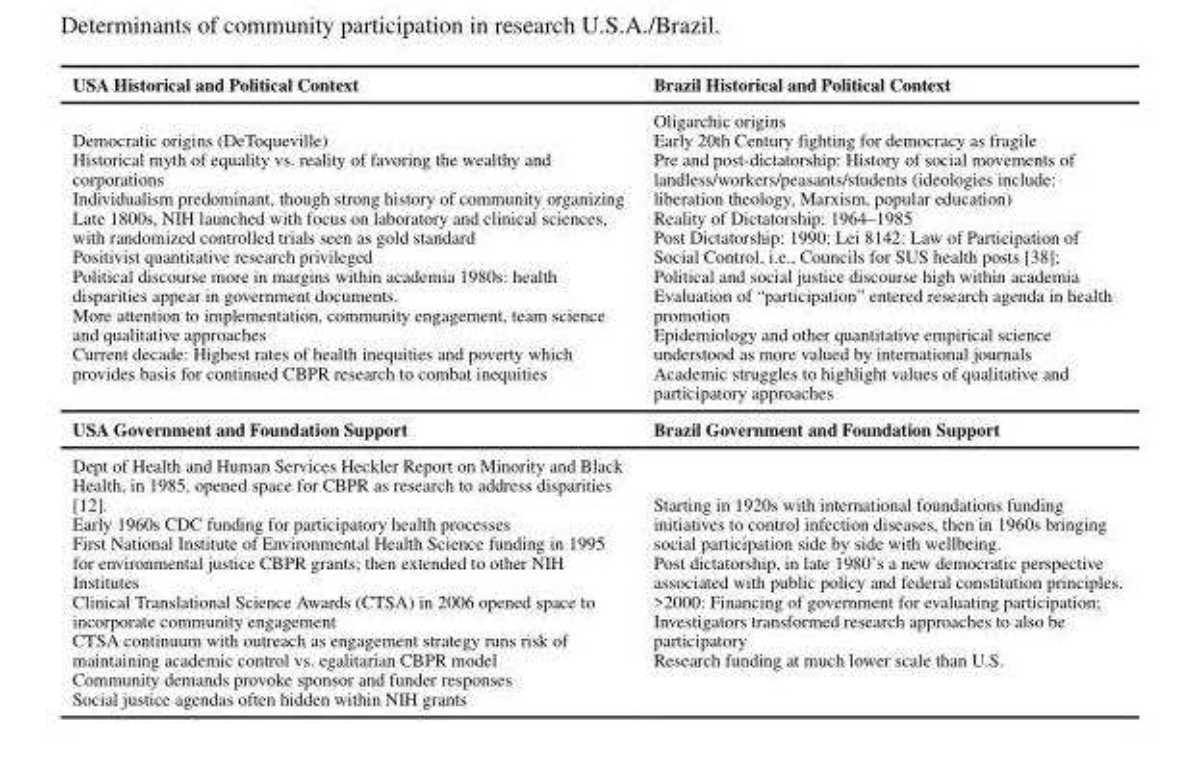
<table><thead><tr><td>USA Historical and Political Context</td><td>Brazil Historical and Political Context</td></tr></thead><tbody><tr><td>Democratic origins (DeToqueville) Historical myth of equality vs. reality of favoring the wealthy and corporations Individualism predominant, though strong history of community organizing Late 1800s, NIH launched with focus on laboratory and clinical sciences, with randomized controlled trials seen as gold standard Positivist quantitative research privileged Political discourse more in margins within academia 1980s: health disparities appear in government documents. More attention to implementation, community engagement, team science and qualitative approaches Current decade: Highest rates of health inequities and poverty which provides basis for continued CBPR research to combat inequities</td><td>Oligarchic origins Early 20th Century fighting for democracy as fragile Pre and post-dictatorship: History of social movements of landless/workers/peasants/students (ideologies include: liberation theology, Marxism, popular education) Reality of Dictatorship: 1964–1985 Post Dictatorship: 1990: Lei 8142: Law of Participation of Social Control, i.e., Councils for SUS health posts [38]; Political and social justice discourse high within academia Evaluation of “participation” entered research agenda in health promotion Epidemiology and other quantitative empirical science understood as more valued by international journals Academic struggles to highlight values of qualitative and participatory approaches</td></tr><tr><td>USA Government and Foundation Support</td><td>Brazil Government and Foundation Support</td></tr><tr><td>Dept of Health and Human Services Heckler Report on Minority and Black Health, in 1985, opened space for CBPR as research to address disparities [12]. Early 1960s CDC funding for participatory health processes First National Institute of Environmental Health Science funding in 1995 for environmental justice CBPR grants; then extended to other NIH Institutes Clinical Translational Science Awards (CTSA) in 2006 opened space to incorporate community engagement CTSA continuum with outreach as engagement strategy runs risk of maintaining academic control vs. egalitarian CBPR model Community demands provoke sponsor and funder responses Social justice agendas often hidden within NIH grants</td><td>Starting in 1920s with international foundations funding initiatives to control infection diseases, then in 1960s bringing social participation side by side with wellbeing. Post dictatorship, in late 1980’s a new democratic perspective associated with public policy and federal constitution principles. &gt;2000: Financing of government for evaluating participation; Investigators transformed research approaches to also be participatory Research funding at much lower scale than U.S.</td></tr></tbody></table>